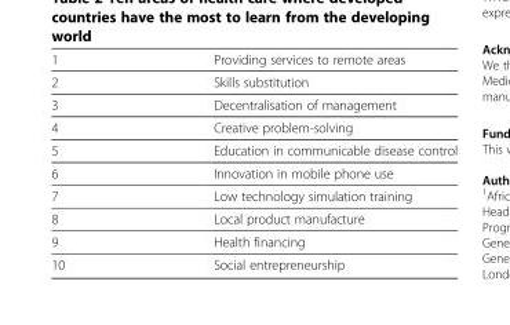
<table><tbody><tr><td>1</td><td>Providing services to remote areas</td></tr><tr><td>2</td><td>Skills substitution</td></tr><tr><td>3</td><td>Decentralisation of management</td></tr><tr><td>4</td><td>Creative problem-solving</td></tr><tr><td>5</td><td>Education in communicable disease control</td></tr><tr><td>6</td><td>Innovation in mobile phone use</td></tr><tr><td>7</td><td>Low technology simulation training</td></tr><tr><td>8</td><td>Local product manufacture</td></tr><tr><td>9</td><td>Health financing</td></tr><tr><td>10</td><td>Social entrepreneurship</td></tr></tbody></table>